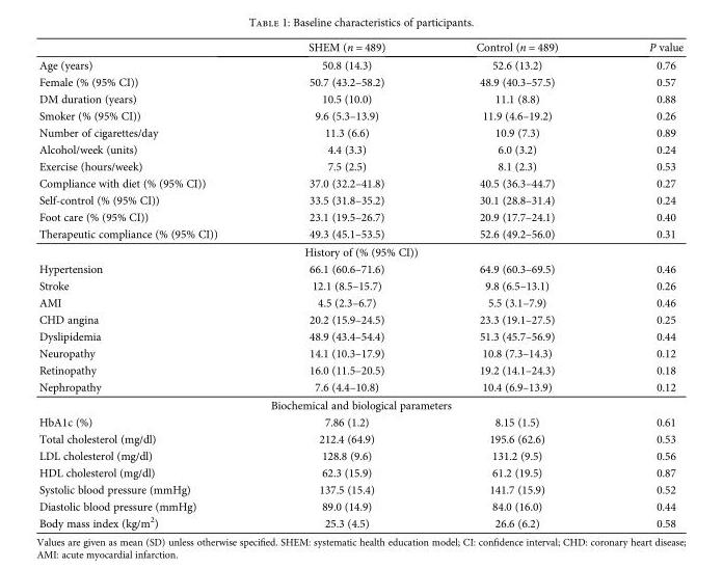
<table><thead><tr><td></td><td>SHEM (n = 489)</td><td>Control (n = 489)</td><td>P value</td></tr></thead><tbody><tr><td>Age (years)</td><td>50.8 (14.3)</td><td>52.6 (13.2)</td><td>0.76</td></tr><tr><td>Female (% (95% CI))</td><td>50.7 (43.2–58.2)</td><td>48.9 (40.3–57.5)</td><td>0.57</td></tr><tr><td>DM duration (years)</td><td>10.5 (10.0)</td><td>11.1 (8.8)</td><td>0.88</td></tr><tr><td>Smoker (% (95% CI))</td><td>9.6 (5.3–13.9)</td><td>11.9 (4.6–19.2)</td><td>0.26</td></tr><tr><td>Number of cigarettes/day</td><td>11.3 (6.6)</td><td>10.9 (7.3)</td><td>0.89</td></tr><tr><td>Alcohol/week (units)</td><td>4.4 (3.3)</td><td>6.0 (3.2)</td><td>0.24</td></tr><tr><td>Exercise (hours/week)</td><td>7.5 (2.5)</td><td>8.1 (2.3)</td><td>0.53</td></tr><tr><td>Compliance with diet (% (95% CI))</td><td>37.0 (32.2–41.8)</td><td>40.5 (36.3–44.7)</td><td>0.27</td></tr><tr><td>Self-control (% (95% CI))</td><td>33.5 (31.8–35.2)</td><td>30.1 (28.8–31.4)</td><td>0.24</td></tr><tr><td>Foot care (% (95% CI))</td><td>23.1 (19.5–26.7)</td><td>20.9 (17.7–24.1)</td><td>0.40</td></tr><tr><td>Therapeutic compliance (% (95% CI))</td><td>49.3 (45.1–53.5)</td><td>52.6 (49.2–56.0)</td><td>0.31</td></tr><tr><td colspan="4">History of (% (95% CI))</td></tr><tr><td>Hypertension</td><td>66.1 (60.6–71.6)</td><td>64.9 (60.3–69.5)</td><td>0.46</td></tr><tr><td>Stroke</td><td>12.1 (8.5–15.7)</td><td>9.8 (6.5–13.1)</td><td>0.26</td></tr><tr><td>AMI</td><td>4.5 (2.3–6.7)</td><td>5.5 (3.1–7.9)</td><td>0.46</td></tr><tr><td>CHD angina</td><td>20.2 (15.9–24.5)</td><td>23.3 (19.1–27.5)</td><td>0.25</td></tr><tr><td>Dyslipidemia</td><td>48.9 (43.4–54.4)</td><td>51.3 (45.7–56.9)</td><td>0.44</td></tr><tr><td>Neuropathy</td><td>14.1 (10.3–17.9)</td><td>10.8 (7.3–14.3)</td><td>0.12</td></tr><tr><td>Retinopathy</td><td>16.0 (11.5–20.5)</td><td>19.2 (14.1–24.3)</td><td>0.18</td></tr><tr><td>Nephropathy</td><td>7.6 (4.4–10.8)</td><td>10.4 (6.9–13.9)</td><td>0.12</td></tr><tr><td colspan="4">Biochemical and biological parameters</td></tr><tr><td>HbA1c (%)</td><td>7.86 (1.2)</td><td>8.15 (1.5)</td><td>0.61</td></tr><tr><td>Total cholesterol (mg/dl)</td><td>212.4 (64.9)</td><td>195.6 (62.6)</td><td>0.53</td></tr><tr><td>LDL cholesterol (mg/dl)</td><td>128.8 (9.6)</td><td>131.2 (9.5)</td><td>0.56</td></tr><tr><td>HDL cholesterol (mg/dl)</td><td>62.3 (15.9)</td><td>61.2 (19.5)</td><td>0.87</td></tr><tr><td>Systolic blood pressure (mmHg)</td><td>137.5 (15.4)</td><td>141.7 (15.9)</td><td>0.52</td></tr><tr><td>Diastolic blood pressure (mmHg)</td><td>89.0 (14.9)</td><td>84.0 (16.0)</td><td>0.44</td></tr><tr><td>Body mass index (kg/m<sup>2</sup>)</td><td>25.3 (4.5)</td><td>26.6 (6.2)</td><td>0.58</td></tr></tbody></table>